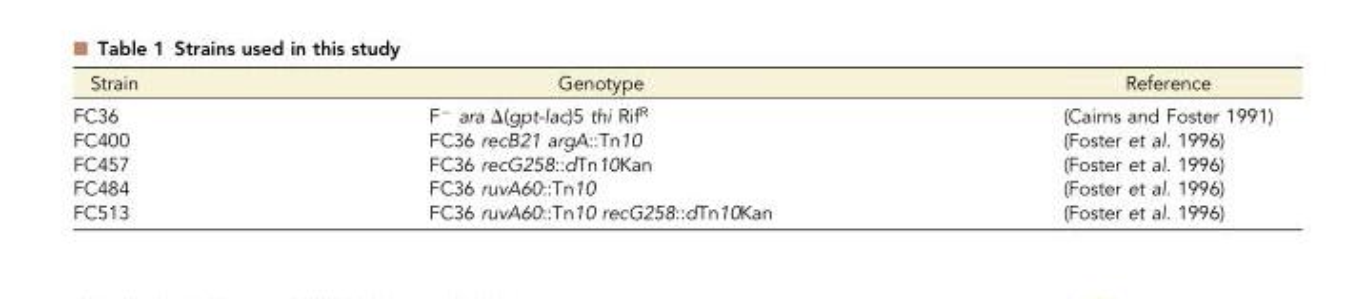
<table><thead><tr><td>Strain</td><td>Genotype</td><td>Reference</td></tr></thead><tbody><tr><td>FC36</td><td>F<sup>−</sup> ara Δ(gpt-lac)5 thi Rif<sup>R</sup></td><td>(Cairns and Foster 1991)</td></tr><tr><td>FC400</td><td>FC36 recB21 argA::Tn10</td><td>(Foster et al. 1996)</td></tr><tr><td>FC457</td><td>FC36 recG258::dTn10Kan</td><td>(Foster et al. 1996)</td></tr><tr><td>FC484</td><td>FC36 ruvA60::Tn10</td><td>(Foster et al. 1996)</td></tr><tr><td>FC513</td><td>FC36 ruvA60::Tn10 recG258::dTn10Kan</td><td>(Foster et al. 1996)</td></tr></tbody></table>